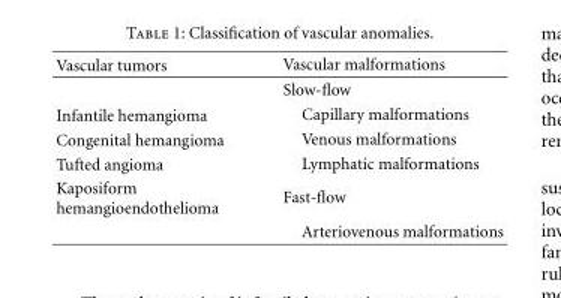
<table><thead><tr><td>Vascular tumors</td><td>Vascular malformations</td></tr></thead><tbody><tr><td></td><td>Slow-flow</td></tr><tr><td>Infantile hemangioma</td><td>Capillary malformations</td></tr><tr><td>Congenital hemangioma</td><td>Venous malformations</td></tr><tr><td>Tufted angioma</td><td>Lymphatic malformations</td></tr><tr><td rowspan="2">Kaposiform hemangioendothelioma</td><td>Fast-flow</td></tr><tr><td>Arteriovenous malformations</td></tr></tbody></table>